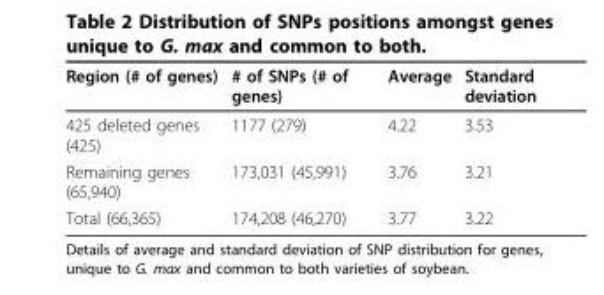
<table><thead><tr><td>Region (# of genes)</td><td># of SNPs (# of genes)</td><td>Average</td><td>Standard deviation</td></tr></thead><tbody><tr><td>425 deleted genes (425)</td><td>1177 (279)</td><td>4.22</td><td>3.53</td></tr><tr><td>Remaining genes (65,940)</td><td>173,031 (45,991)</td><td>3.76</td><td>3.21</td></tr><tr><td>Total (66,365)</td><td>174,208 (46,270)</td><td>3.77</td><td>3.22</td></tr></tbody></table>